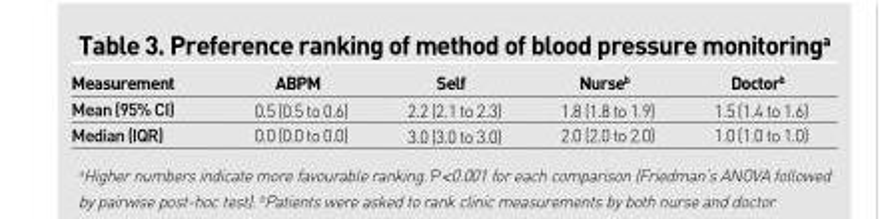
<table><thead><tr><td>Measurement</td><td>ABPM</td><td>Self</td><td>Nurse<sup>b</sup></td><td>Doctor<sup>b</sup></td></tr></thead><tbody><tr><td>Mean (95% CI)</td><td>0.5 (0.5 to 0.6)</td><td>2.2 (2.1 to 2.3)</td><td>1.8 (1.8 to 1.9)</td><td>1.5 (1.4 to 1.6)</td></tr><tr><td>Median (IQR)</td><td>0.0 (0.0 to 0.0)</td><td>3.0 (3.0 to 3.0)</td><td>2.0 (2.0 to 2.0)</td><td>1.0 (1.0 to 1.0)</td></tr></tbody></table>